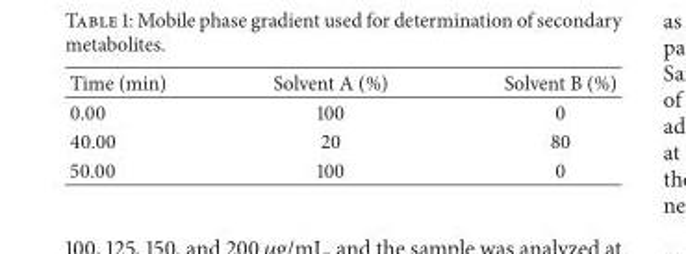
<table><thead><tr><td>Time (min)</td><td>Solvent A (%)</td><td>Solvent B (%)</td></tr></thead><tbody><tr><td>0.00</td><td>100</td><td>0</td></tr><tr><td>40.00</td><td>20</td><td>80</td></tr><tr><td>50.00</td><td>100</td><td>0</td></tr></tbody></table>